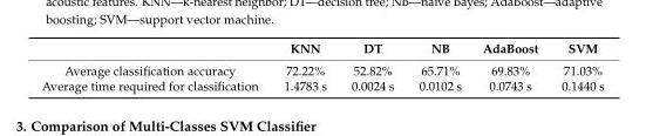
<table><thead><tr><td></td><td>KNN</td><td>DT</td><td>NB</td><td>AdaBoost</td><td>SVM</td></tr></thead><tbody><tr><td>Average classification accuracy</td><td>72.22%</td><td>52.82%</td><td>65.71%</td><td>69.83%</td><td>71.03%</td></tr><tr><td>Average time required for classification</td><td>1.4783 s</td><td>0.0024 s</td><td>0.0102 s</td><td>0.0743 s</td><td>0.1440 s</td></tr></tbody></table>